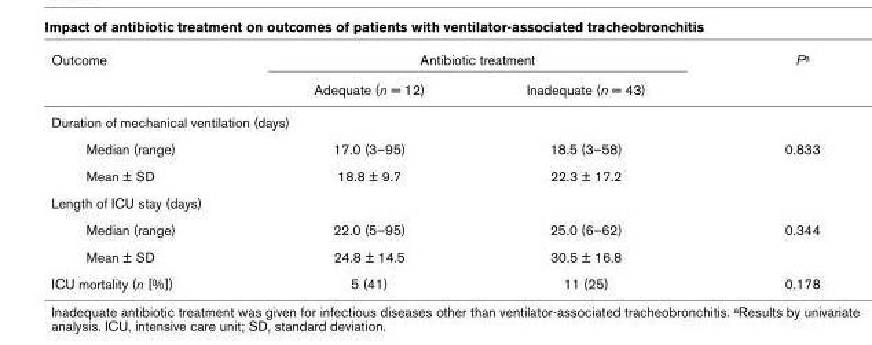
<table><thead><tr><td rowspan="2">Outcome</td><td colspan="2">Antibiotic treatment</td><td rowspan="2">Pa</td></tr><tr><td>Adequate (n = 12)</td><td>Inadequate (n = 43)</td></tr></thead><tbody><tr><td colspan="4">Duration of mechanical ventilation (days)</td></tr><tr><td>Median (range)</td><td>17.0 (3–95)</td><td>18.5 (3–58)</td><td>0.833</td></tr><tr><td>Mean ± SD</td><td>18.8 ± 9.7</td><td>22.3 ± 17.2</td><td></td></tr><tr><td colspan="4">Length of ICU stay (days)</td></tr><tr><td>Median (range)</td><td>22.0 (5–95)</td><td>25.0 (6–62)</td><td>0.344</td></tr><tr><td>Mean ± SD</td><td>24.8 ± 14.5</td><td>30.5 ± 16.8</td><td></td></tr><tr><td>ICU mortality (n [%])</td><td>5 (41)</td><td>11 (25)</td><td>0.178</td></tr></tbody></table>